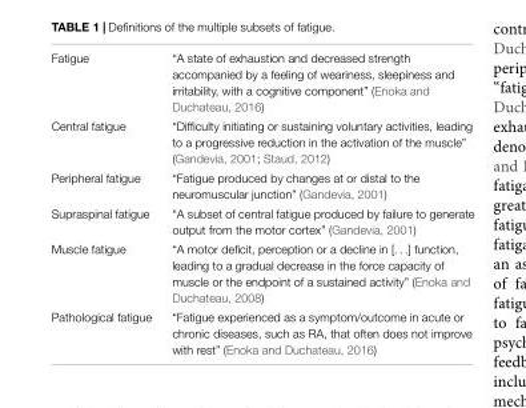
<table><tbody><tr><td>Fatigue</td><td>“A state of exhaustion and decreased strength accompanied by a feeling of weariness, sleepiness and irritability, with a cognitive component” (Enoka and Duchateau, 2016)</td></tr><tr><td>Central fatigue</td><td>“Difficulty initiating or sustaining voluntary activities, leading to a progressive reduction in the activation of the muscle” (Gandevia, 2001; Staud, 2012)</td></tr><tr><td>Peripheral fatigue</td><td>“Fatigue produced by changes at or distal to the neuromuscular junction” (Gandevia, 2001)</td></tr><tr><td>Supraspinal fatigue</td><td>“A subset of central fatigue produced by failure to generate output from the motor cortex” (Gandevia, 2001)</td></tr><tr><td>Muscle fatigue</td><td>“A motor deficit, perception or a decline in [. . .] function, leading to a gradual decrease in the force capacity of muscle or the endpoint of a sustained activity” (Enoka and Duchateau, 2008)</td></tr><tr><td>Pathological fatigue</td><td>“Fatigue experienced as a symptom/outcome in acute or chronic diseases, such as RA, that often does not improve with rest” (Enoka and Duchateau, 2016)</td></tr></tbody></table>